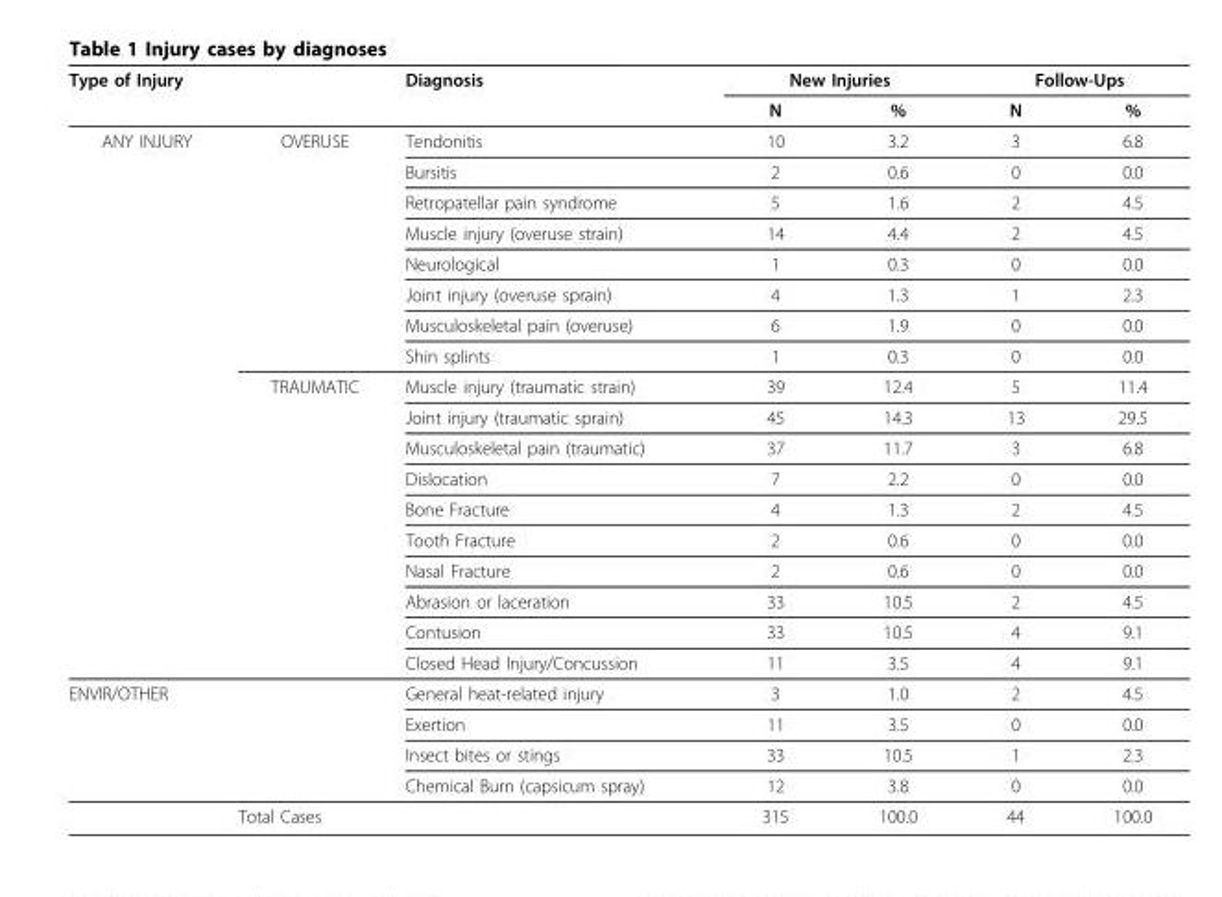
<table><thead><tr><td colspan="2">Type of Injury</td><td rowspan="2">Diagnosis</td><td colspan="2">New Injuries</td><td colspan="2">Follow-Ups</td></tr><tr><td></td><td></td><td>N</td><td>%</td><td>N</td><td>%</td></tr></thead><tbody><tr><td rowspan="18">ANY INJURY</td><td>OVERUSE</td><td>Tendonitis</td><td>10</td><td>3.2</td><td>3</td><td>6.8</td></tr><tr><td></td><td>Bursitis</td><td>2</td><td>0.6</td><td>0</td><td>0.0</td></tr><tr><td></td><td>Retropatellar pain syndrome</td><td>5</td><td>1.6</td><td>2</td><td>4.5</td></tr><tr><td></td><td>Muscle injury (overuse strain)</td><td>14</td><td>4.4</td><td>2</td><td>4.5</td></tr><tr><td></td><td>Neurological</td><td>1</td><td>0.3</td><td>0</td><td>0.0</td></tr><tr><td></td><td>Joint injury (overuse sprain)</td><td>4</td><td>1.3</td><td>1</td><td>2.3</td></tr><tr><td></td><td>Musculoskeletal pain (overuse)</td><td>6</td><td>1.9</td><td>0</td><td>0.0</td></tr><tr><td></td><td>Shin splints</td><td>1</td><td>0.3</td><td>0</td><td>0.0</td></tr><tr><td>TRAUMATIC</td><td>Muscle injury (traumatic strain)</td><td>39</td><td>12.4</td><td>5</td><td>11.4</td></tr><tr><td></td><td>Joint injury (traumatic sprain)</td><td>45</td><td>14.3</td><td>13</td><td>29.5</td></tr><tr><td></td><td>Musculoskeletal pain (traumatic)</td><td>37</td><td>11.7</td><td>3</td><td>6.8</td></tr><tr><td></td><td>Dislocation</td><td>7</td><td>2.2</td><td>0</td><td>0.0</td></tr><tr><td></td><td>Bone Fracture</td><td>4</td><td>1.3</td><td>2</td><td>4.5</td></tr><tr><td></td><td>Tooth Fracture</td><td>2</td><td>0.6</td><td>0</td><td>0.0</td></tr><tr><td></td><td>Nasal Fracture</td><td>2</td><td>0.6</td><td>0</td><td>0.0</td></tr><tr><td></td><td>Abrasion or laceration</td><td>33</td><td>10.5</td><td>2</td><td>4.5</td></tr><tr><td></td><td>Contusion</td><td>33</td><td>10.5</td><td>4</td><td>9.1</td></tr><tr><td></td><td>Closed Head Injury/Concussion</td><td>11</td><td>3.5</td><td>4</td><td>9.1</td></tr><tr><td colspan="2">ENVIR/OTHER</td><td>General heat-related injury</td><td>3</td><td>1.0</td><td>2</td><td>4.5</td></tr><tr><td></td><td></td><td>Exertion</td><td>11</td><td>3.5</td><td>0</td><td>0.0</td></tr><tr><td></td><td></td><td>Insect bites or stings</td><td>33</td><td>10.5</td><td>1</td><td>2.3</td></tr><tr><td></td><td></td><td>Chemical Burn (capsicum spray)</td><td>12</td><td>3.8</td><td>0</td><td>0.0</td></tr><tr><td></td><td colspan="2">Total Cases</td><td>315</td><td>100.0</td><td>44</td><td>100.0</td></tr></tbody></table>